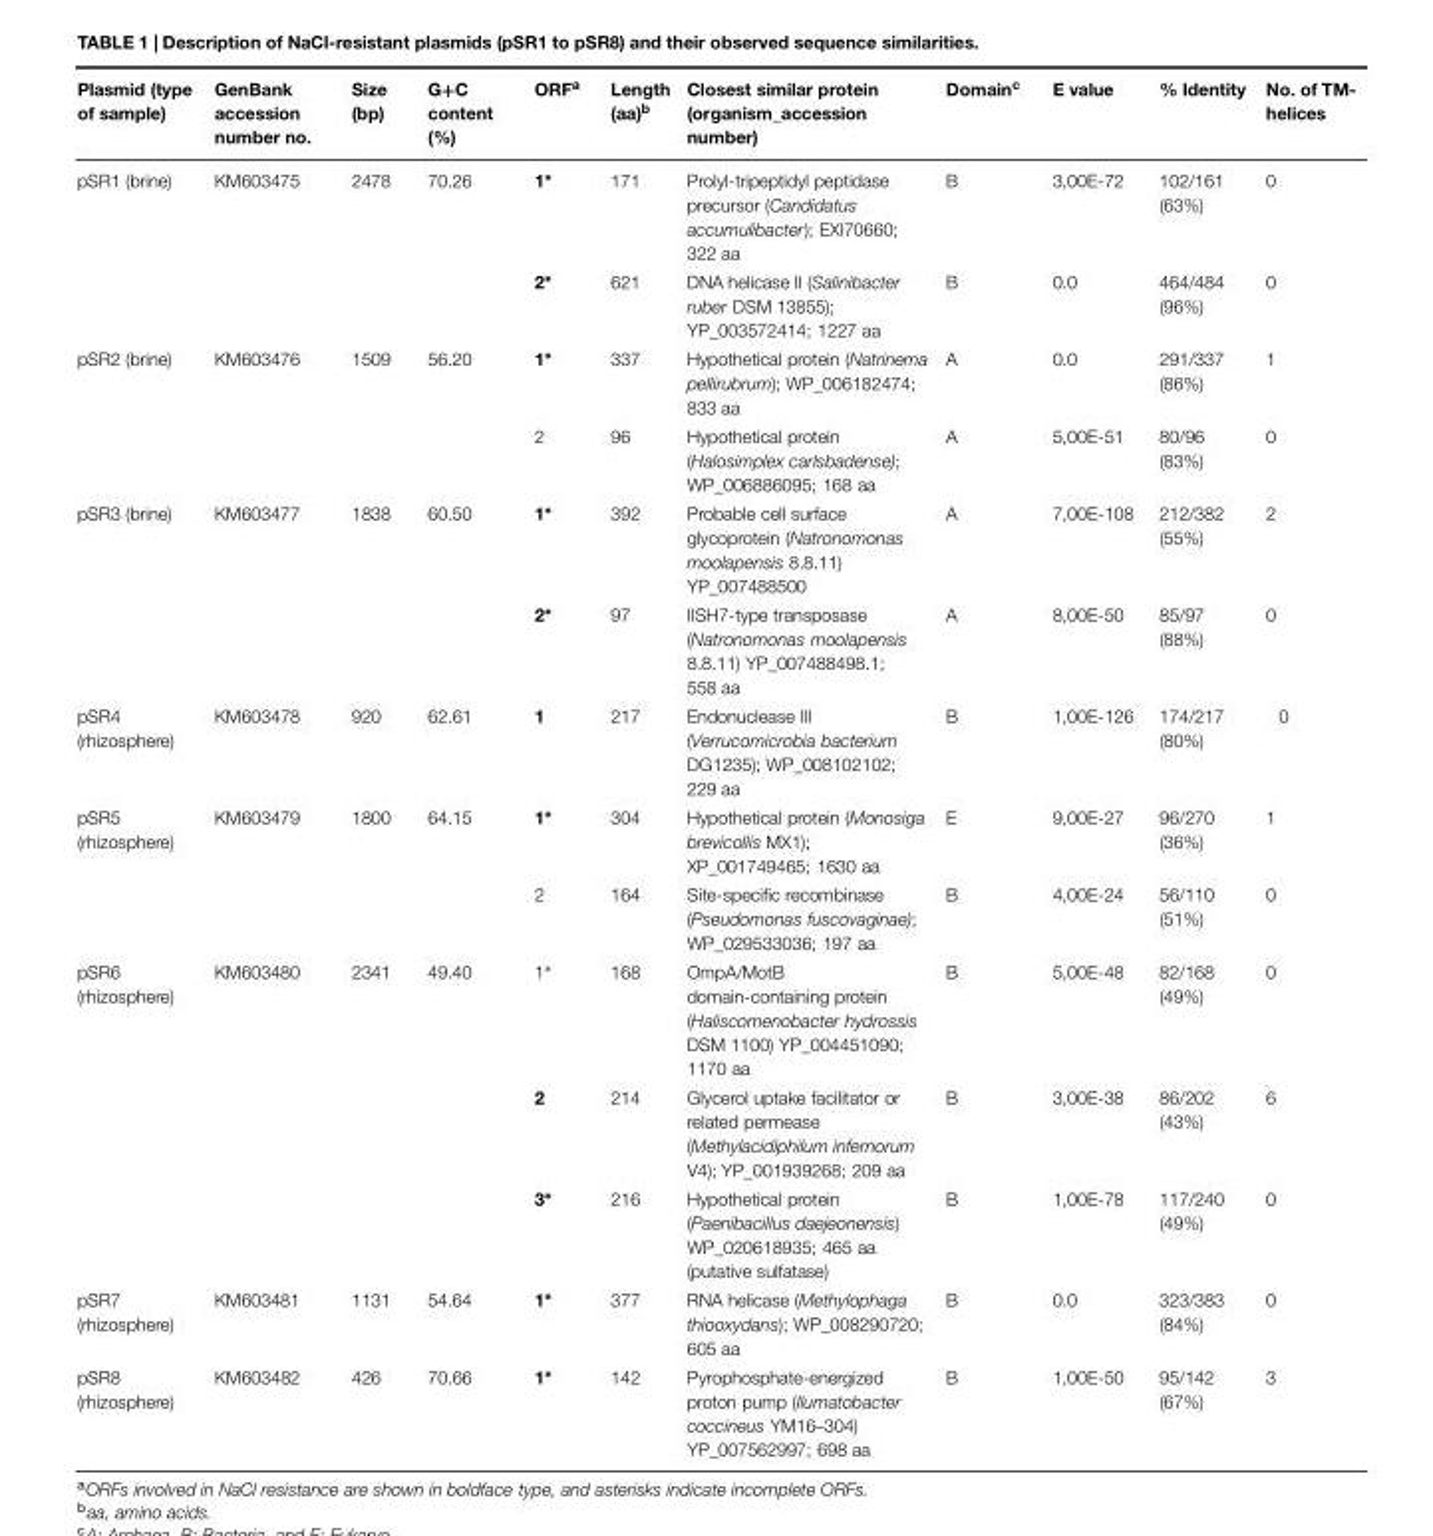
<table><thead><tr><td>Plasmid (type of sample)</td><td>GenBank accession number no.</td><td>Size (bp)</td><td>G+C content (%)</td><td>ORF<sup>a</sup></td><td>Length (aa)<sup>b</sup></td><td>Closest similar protein (organism_accession number)</td><td>Domain<sup>c</sup></td><td>E value</td><td>% Identity</td><td>No. of TM- helices</td></tr></thead><tbody><tr><td rowspan="2">pSR1 (brine)</td><td>KM603475</td><td>2478</td><td>70.26</td><td>1∗</td><td>171</td><td>Prolyl-tripeptidyl peptidase precursor (Candidatus accumulibacter); EXI70660; 322 aa</td><td>B</td><td>3,00E-72</td><td>102/161 (63%)</td><td>0</td></tr><tr><td></td><td></td><td></td><td>2∗</td><td>621</td><td>DNA helicase II (Salinibacter ruber DSM 13855); YP_003572414; 1227 aa</td><td>B</td><td>0.0</td><td>464/484 (96%)</td><td>0</td></tr><tr><td rowspan="2">pSR2 (brine)</td><td>KM603476</td><td>1509</td><td>56.20</td><td>1∗</td><td>337</td><td>Hypothetical protein (Natrinema pellirubrum); WP_006182474; 833 aa</td><td>A</td><td>0.0</td><td>291/337 (86%)</td><td>1</td></tr><tr><td></td><td></td><td></td><td>2</td><td>96</td><td>Hypothetical protein (Halosimplex carlsbadense); WP_006886095; 168 aa</td><td>A</td><td>5,00E-51</td><td>80/96 (83%)</td><td>0</td></tr><tr><td rowspan="2">pSR3 (brine)</td><td>KM603477</td><td>1838</td><td>60.50</td><td>1∗</td><td>392</td><td>Probable cell surface glycoprotein (Natronomonas moolapensis 8.8.11) YP_007488500</td><td>A</td><td>7,00E-108</td><td>212/382 (55%)</td><td>2</td></tr><tr><td></td><td></td><td></td><td>2∗</td><td>97</td><td>IISH7-type transposase (Natronomonas moolapensis 8.8.11) YP_007488498.1; 558 aa</td><td>A</td><td>8,00E-50</td><td>85/97 (88%)</td><td>0</td></tr><tr><td>pSR4 (rhizosphere)</td><td>KM603478</td><td>920</td><td>62.61</td><td>1</td><td>217</td><td>Endonuclease III (Verrucomicrobia bacterium DG1235); WP_008102102; 229 aa</td><td>B</td><td>1,00E-126</td><td>174/217 (80%)</td><td>0</td></tr><tr><td rowspan="2">pSR5 (rhizosphere)</td><td>KM603479</td><td>1800</td><td>64.15</td><td>1∗</td><td>304</td><td>Hypothetical protein (Monosiga brevicollis MX1); XP_001749465; 1630 aa</td><td>E</td><td>9,00E-27</td><td>96/270 (36%)</td><td>1</td></tr><tr><td></td><td></td><td></td><td>2</td><td>164</td><td>Site-specific recombinase (Pseudomonas fuscovaginae); WP_029533036; 197 aa</td><td>B</td><td>4,00E-24</td><td>56/110 (51%)</td><td>0</td></tr><tr><td rowspan="3">pSR6 (rhizosphere)</td><td>KM603480</td><td>2341</td><td>49.40</td><td>1∗</td><td>168</td><td>OmpA/MotB domain-containing protein (Haliscomenobacter hydrossis DSM 1100) YP_004451090; 1170 aa</td><td>B</td><td>5,00E-48</td><td>82/168 (49%)</td><td>0</td></tr><tr><td></td><td></td><td></td><td>2</td><td>214</td><td>Glycerol uptake facilitator or related permease (Methylacidiphilum infernorum V4); YP_001939268; 209 aa</td><td>B</td><td>3,00E-38</td><td>86/202 (43%)</td><td>6</td></tr><tr><td></td><td></td><td></td><td>3∗</td><td>216</td><td>Hypothetical protein (Paenibacillus daejeonensis) WP_020618935; 465 aa (putative sulfatase)</td><td>B</td><td>1,00E-78</td><td>117/240 (49%)</td><td>0</td></tr><tr><td>pSR7 (rhizosphere)</td><td>KM603481</td><td>1131</td><td>54.64</td><td>1∗</td><td>377</td><td>RNA helicase (Methylophaga thiooxydans); WP_008290720; 605 aa</td><td>B</td><td>0.0</td><td>323/383 (84%)</td><td>0</td></tr><tr><td>pSR8 (rhizosphere)</td><td>KM603482</td><td>426</td><td>70.66</td><td>1∗</td><td>142</td><td>Pyrophosphate-energized proton pump (Ilumatobacter coccineus YM16–304) YP_007562997; 698 aa</td><td>B</td><td>1,00E-50</td><td>95/142 (67%)</td><td>3</td></tr></tbody></table>